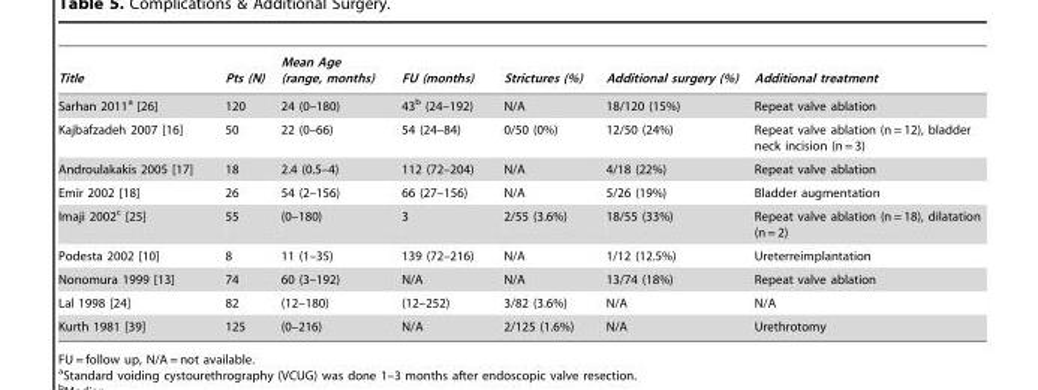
<table><thead><tr><td>Title</td><td>Pts (N)</td><td>Mean Age (range, months)</td><td>FU (months)</td><td>Strictures (%)</td><td>Additional surgery (%)</td><td>Additional treatment</td></tr></thead><tbody><tr><td>Sarhan 2011<sup>a</sup> [26]</td><td>120</td><td>24 (0–180)</td><td>43<sup>b</sup> (24–192)</td><td>N/A</td><td>18/120 (15%)</td><td>Repeat valve ablation</td></tr><tr><td>Kajbafzadeh 2007 [16]</td><td>50</td><td>22 (0–66)</td><td>54 (24–84)</td><td>0/50 (0%)</td><td>12/50 (24%)</td><td>Repeat valve ablation (n = 12), bladder neck incision (n = 3)</td></tr><tr><td>Androulakakis 2005 [17]</td><td>18</td><td>2.4 (0.5–4)</td><td>112 (72–204)</td><td>N/A</td><td>4/18 (22%)</td><td>Repeat valve ablation</td></tr><tr><td>Emir 2002 [18]</td><td>26</td><td>54 (2–156)</td><td>66 (27–156)</td><td>N/A</td><td>5/26 (19%)</td><td>Bladder augmentation</td></tr><tr><td>Imaji 2002<sup>c</sup> [25]</td><td>55</td><td>(0–180)</td><td>3</td><td>2/55 (3.6%)</td><td>18/55 (33%)</td><td>Repeat valve ablation (n = 18), dilatation (n = 2)</td></tr><tr><td>Podesta 2002 [10]</td><td>8</td><td>11 (1–35)</td><td>139 (72–216)</td><td>N/A</td><td>1/12 (12.5%)</td><td>Ureterreimplantation</td></tr><tr><td>Nonomura 1999 [13]</td><td>74</td><td>60 (3–192)</td><td>N/A</td><td>N/A</td><td>13/74 (18%)</td><td>Repeat valve ablation</td></tr><tr><td>Lal 1998 [24]</td><td>82</td><td>(12–180)</td><td>(12–252)</td><td>3/82 (3.6%)</td><td>N/A</td><td>N/A</td></tr><tr><td>Kurth 1981 [39]</td><td>125</td><td>(0–216)</td><td>N/A</td><td>2/125 (1.6%)</td><td>N/A</td><td>Urethrotomy</td></tr></tbody></table>